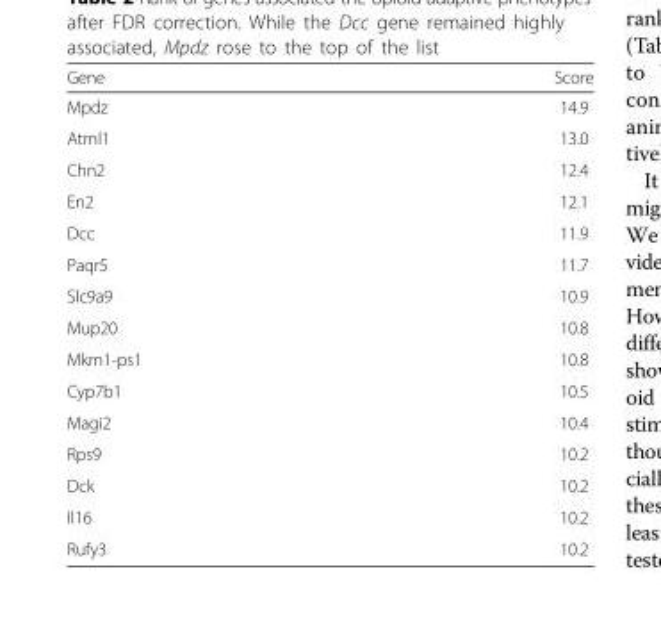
<table><thead><tr><td>Gene</td><td>Score</td></tr></thead><tbody><tr><td>Mpdz</td><td>14.9</td></tr><tr><td>Atrnl1</td><td>13.0</td></tr><tr><td>Chn2</td><td>12.4</td></tr><tr><td>En2</td><td>12.1</td></tr><tr><td>Dcc</td><td>11.9</td></tr><tr><td>Paqr5</td><td>11.7</td></tr><tr><td>Slc9a9</td><td>10.9</td></tr><tr><td>Mup20</td><td>10.8</td></tr><tr><td>Mkrn1-ps1</td><td>10.8</td></tr><tr><td>Cyp7b1</td><td>10.5</td></tr><tr><td>Magi2</td><td>10.4</td></tr><tr><td>Rps9</td><td>10.2</td></tr><tr><td>Dck</td><td>10.2</td></tr><tr><td>Il16</td><td>10.2</td></tr><tr><td>Rufy3</td><td>10.2</td></tr></tbody></table>